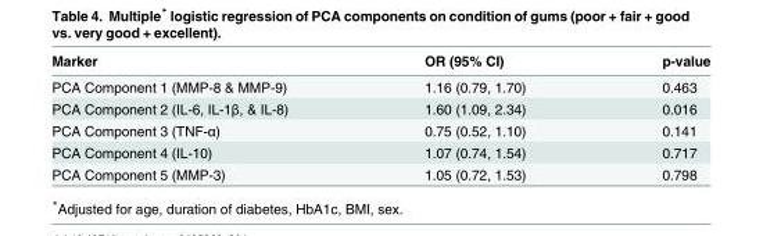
<table><thead><tr><td>Marker</td><td>OR (95% CI)</td><td>p-value</td></tr></thead><tbody><tr><td>PCA Component 1 (MMP-8 &amp; MMP-9)</td><td>1.16 (0.79, 1.70)</td><td>0.463</td></tr><tr><td>PCA Component 2 (IL-6, IL-1β, &amp; IL-8)</td><td>1.60 (1.09, 2.34)</td><td>0.016</td></tr><tr><td>PCA Component 3 (TNF-α)</td><td>0.75 (0.52, 1.10)</td><td>0.141</td></tr><tr><td>PCA Component 4 (IL-10)</td><td>1.07 (0.74, 1.54)</td><td>0.717</td></tr><tr><td>PCA Component 5 (MMP-3)</td><td>1.05 (0.72, 1.53)</td><td>0.798</td></tr></tbody></table>